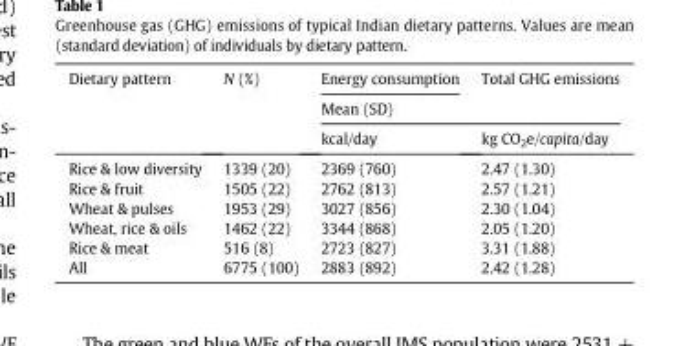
<table><thead><tr><td rowspan="3">Dietary pattern</td><td rowspan="3">N (%)</td><td>Energy consumption</td><td>Total GHG emissions</td></tr><tr><td colspan="2">Mean (SD)</td></tr><tr><td>kcal/day</td><td>kg CO<sub>2</sub>e/capita/day</td></tr></thead><tbody><tr><td>Rice &amp; low diversity</td><td>1339 (20)</td><td>2369 (760)</td><td>2.47 (1.30)</td></tr><tr><td>Rice &amp; fruit</td><td>1505 (22)</td><td>2762 (813)</td><td>2.57 (1.21)</td></tr><tr><td>Wheat &amp; pulses</td><td>1953 (29)</td><td>3027 (856)</td><td>2.30 (1.04)</td></tr><tr><td>Wheat, rice &amp; oils</td><td>1462 (22)</td><td>3344 (868)</td><td>2.05 (1.20)</td></tr><tr><td>Rice &amp; meat</td><td>516 (8)</td><td>2723 (827)</td><td>3.31 (1.88)</td></tr><tr><td>All</td><td>6775 (100)</td><td>2883 (892)</td><td>2.42 (1.28)</td></tr></tbody></table>